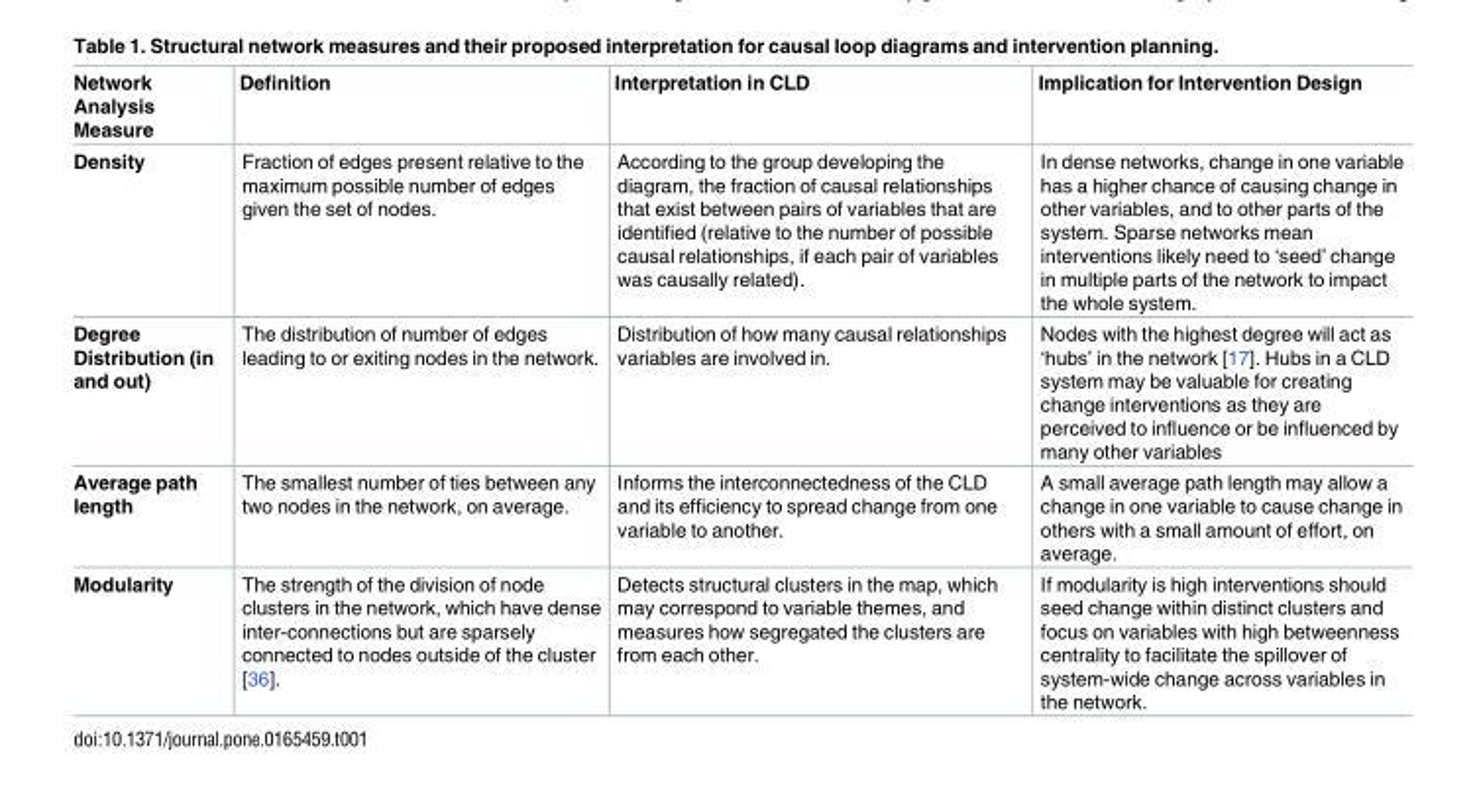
<table><thead><tr><td>Network Analysis Measure</td><td>Definition</td><td>Interpretation in CLD</td><td>Implication for Intervention Design</td></tr></thead><tbody><tr><td>Density</td><td>Fraction of edges present relative to the maximum possible number of edges given the set of nodes.</td><td>According to the group developing the diagram, the fraction of causal relationships that exist between pairs of variables that are identified (relative to the number of possible causal relationships, if each pair of variables was causally related).</td><td>In dense networks, change in one variable has a higher chance of causing change in other variables, and to other parts of the system. Sparse networks mean interventions likely need to ‘seed’ change in multiple parts of the network to impact the whole system.</td></tr><tr><td>Degree Distribution (in and out)</td><td>The distribution of number of edges leading to or exiting nodes in the network.</td><td>Distribution of how many causal relationships variables are involved in.</td><td>Nodes with the highest degree will act as ‘hubs’ in the network [17]. Hubs in a CLD system may be valuable for creating change interventions as they are perceived to influence or be influenced by many other variables</td></tr><tr><td>Average path length</td><td>The smallest number of ties between any two nodes in the network, on average.</td><td>Informs the interconnectedness of the CLD and its efficiency to spread change from one variable to another.</td><td>A small average path length may allow a change in one variable to cause change in others with a small amount of effort, on average.</td></tr><tr><td>Modularity</td><td>The strength of the division of node clusters in the network, which have dense inter-connections but are sparsely connected to nodes outside of the cluster [36].</td><td>Detects structural clusters in the map, which may correspond to variable themes, and measures how segregated the clusters are from each other.</td><td>If modularity is high interventions should seed change within distinct clusters and focus on variables with high betweenness centrality to facilitate the spillover of system-wide change across variables in the network.</td></tr></tbody></table>